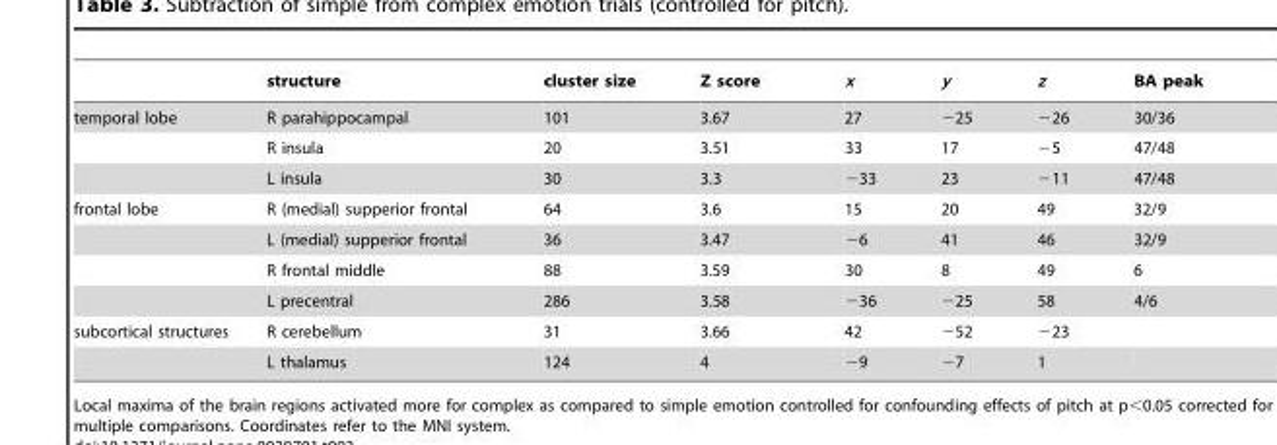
<table><thead><tr><td></td><td>structure</td><td>cluster size</td><td>Z score</td><td>x</td><td>y</td><td>z</td><td>BA peak</td></tr></thead><tbody><tr><td rowspan="3">temporal lobe</td><td>R parahippocampal</td><td>101</td><td>3.67</td><td>27</td><td>−25</td><td>−26</td><td>30/36</td></tr><tr><td>R insula</td><td>20</td><td>3.51</td><td>33</td><td>17</td><td>−5</td><td>47/48</td></tr><tr><td>L insula</td><td>30</td><td>3.3</td><td>−33</td><td>23</td><td>−11</td><td>47/48</td></tr><tr><td rowspan="4">frontal lobe</td><td>R (medial) supperior frontal</td><td>64</td><td>3.6</td><td>15</td><td>20</td><td>49</td><td>32/9</td></tr><tr><td>L (medial) supperior frontal</td><td>36</td><td>3.47</td><td>−6</td><td>41</td><td>46</td><td>32/9</td></tr><tr><td>R frontal middle</td><td>88</td><td>3.59</td><td>30</td><td>8</td><td>49</td><td>6</td></tr><tr><td>L precentral</td><td>286</td><td>3.58</td><td>−36</td><td>−25</td><td>58</td><td>4/6</td></tr><tr><td rowspan="2">subcortical structures</td><td>R cerebellum</td><td>31</td><td>3.66</td><td>42</td><td>−52</td><td>−23</td><td></td></tr><tr><td>L thalamus</td><td>124</td><td>4</td><td>−9</td><td>−7</td><td>1</td><td></td></tr></tbody></table>